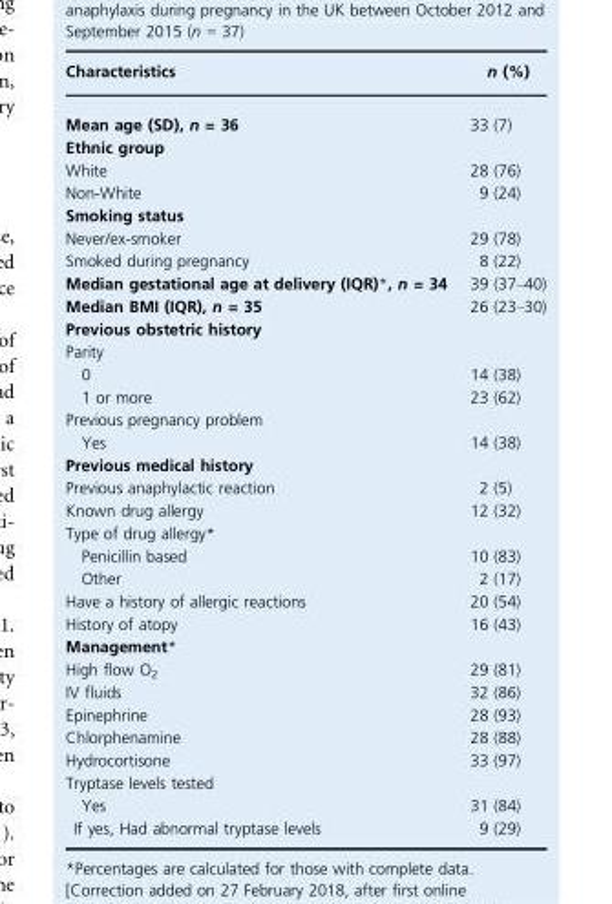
<table><thead><tr><td>Characteristics</td><td>n (%)</td></tr></thead><tbody><tr><td>Mean age (SD), n = 36</td><td>33 (7)</td></tr><tr><td colspan="2">Ethnic group</td></tr><tr><td>White</td><td>28 (76)</td></tr><tr><td>Non-White</td><td>9 (24)</td></tr><tr><td colspan="2">Smoking status</td></tr><tr><td>Never/ex-smoker</td><td>29 (78)</td></tr><tr><td>Smoked during pregnancy</td><td>8 (22)</td></tr><tr><td>Median gestational age at delivery (IQR)*, n = 34</td><td>39 (37–40)</td></tr><tr><td>Median BMI (IQR), n = 35</td><td>26 (23–30)</td></tr><tr><td colspan="2">Previous obstetric history</td></tr><tr><td colspan="2">Parity</td></tr><tr><td>0</td><td>14 (38)</td></tr><tr><td>1 or more</td><td>23 (62)</td></tr><tr><td colspan="2">Previous pregnancy problem</td></tr><tr><td>Yes</td><td>14 (38)</td></tr><tr><td colspan="2">Previous medical history</td></tr><tr><td>Previous anaphylactic reaction</td><td>2 (5)</td></tr><tr><td>Known drug allergy</td><td>12 (32)</td></tr><tr><td colspan="2">Type of drug allergy*</td></tr><tr><td>Penicillin based</td><td>10 (83)</td></tr><tr><td>Other</td><td>2 (17)</td></tr><tr><td>Have a history of allergic reactions</td><td>20 (54)</td></tr><tr><td>History of atopy</td><td>16 (43)</td></tr><tr><td colspan="2">Management*</td></tr><tr><td>High flow O<sub>2</sub></td><td>29 (81)</td></tr><tr><td>IV fluids</td><td>32 (86)</td></tr><tr><td>Epinephrine</td><td>28 (93)</td></tr><tr><td>Chlorphenamine</td><td>28 (88)</td></tr><tr><td>Hydrocortisone</td><td>33 (97)</td></tr><tr><td colspan="2">Tryptase levels tested</td></tr><tr><td>Yes</td><td>31 (84)</td></tr><tr><td>If yes, Had abnormal tryptase levels</td><td>9 (29)</td></tr></tbody></table>